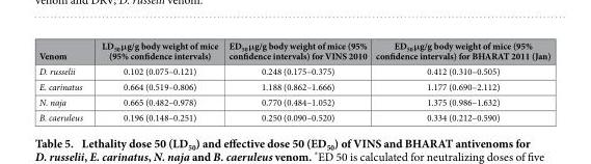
<table><thead><tr><td>Venom</td><td>LD<sub>50</sub> μg/g body weight of mice (95% confidence intervals)</td><td>ED<sub>50</sub> μg/g body weight of mice (95% confidence intervals) for VINS 2010</td><td>ED<sub>50</sub> μg/g body weight of mice (95% confidence intervals) for BHARAT 2011 (Jan)</td></tr></thead><tbody><tr><td>D. russelii</td><td>0.102 (0.075–0.121)</td><td>0.248 (0.175–0.375)</td><td>0.412 (0.310–0.505)</td></tr><tr><td>E. carinatus</td><td>0.664 (0.519–0.806)</td><td>1.188 (0.862–1.666)</td><td>1.177 (0.690–2.112)</td></tr><tr><td>N. naja</td><td>0.665 (0.482–0.978)</td><td>0.770 (0.484–1.052)</td><td>1.375 (0.986–1.632)</td></tr><tr><td>B. caeruleus</td><td>0.196 (0.148–0.251)</td><td>0.250 (0.090–0.520)</td><td>0.334 (0.212–0.590)</td></tr></tbody></table>